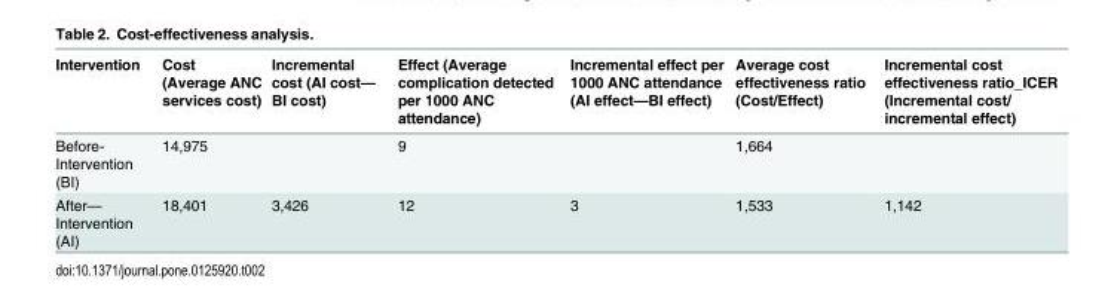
<table><thead><tr><td>Intervention</td><td>Cost (Average ANC services cost)</td><td>Incremental cost (AI cost— BI cost)</td><td>Effect (Average complication detected per 1000 ANC attendance)</td><td>Incremental effect per 1000 ANC attendance (AI effect—BI effect)</td><td>Average cost effectiveness ratio (Cost/Effect)</td><td>Incremental cost effectiveness ratio_ICER (Incremental cost/ incremental effect)</td></tr></thead><tbody><tr><td>Before- Intervention (BI)</td><td>14,975</td><td></td><td>9</td><td></td><td>1,664</td><td></td></tr><tr><td>After— Intervention (AI)</td><td>18,401</td><td>3,426</td><td>12</td><td>3</td><td>1,533</td><td>1,142</td></tr></tbody></table>